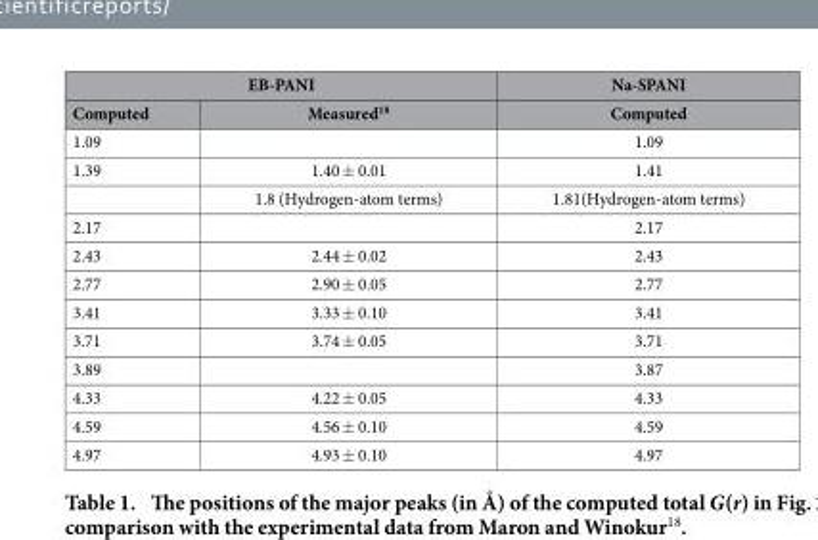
<table><thead><tr><td colspan="2">EB-PANI</td><td rowspan="2">Na-SPANI Computed</td></tr><tr><td>Computed</td><td>Measured<sup>18</sup></td></tr></thead><tbody><tr><td>1.09</td><td></td><td>1.09</td></tr><tr><td rowspan="2">1.39</td><td>1.40 ± 0.01</td><td>1.41</td></tr><tr><td>1.8 (Hydrogen-atom terms)</td><td>1.81(Hydrogen-atom terms)</td></tr><tr><td>2.17</td><td></td><td>2.17</td></tr><tr><td>2.43</td><td>2.44 ± 0.02</td><td>2.43</td></tr><tr><td>2.77</td><td>2.90 ± 0.05</td><td>2.77</td></tr><tr><td>3.41</td><td>3.33 ± 0.10</td><td>3.41</td></tr><tr><td>3.71</td><td>3.74 ± 0.05</td><td>3.71</td></tr><tr><td>3.89</td><td></td><td>3.87</td></tr><tr><td>4.33</td><td>4.22 ± 0.05</td><td>4.33</td></tr><tr><td>4.59</td><td>4.56 ± 0.10</td><td>4.59</td></tr><tr><td>4.97</td><td>4.93 ± 0.10</td><td>4.97</td></tr></tbody></table>